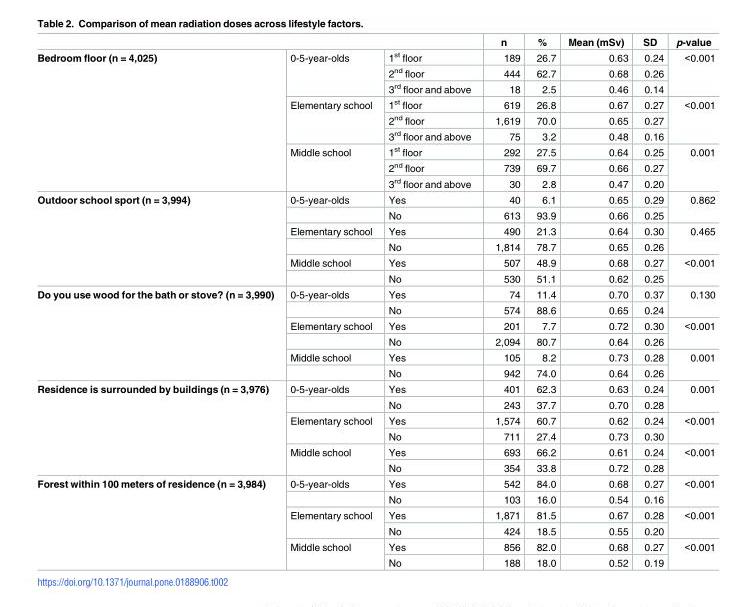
<table><thead><tr><td></td><td></td><td></td><td>n</td><td>%</td><td>Mean (mSv)</td><td>SD</td><td>p-value</td></tr></thead><tbody><tr><td rowspan="9">Bedroom floor (n = 4,025)</td><td rowspan="3">0-5-year-olds</td><td>1<sup>st</sup> floor</td><td>189</td><td>26.7</td><td>0.63</td><td>0.24</td><td rowspan="3">&lt;0.001</td></tr><tr><td>2<sup>nd</sup> floor</td><td>444</td><td>62.7</td><td>0.68</td><td>0.26</td></tr><tr><td>3<sup>rd</sup> floor and above</td><td>18</td><td>2.5</td><td>0.46</td><td>0.14</td></tr><tr><td rowspan="3">Elementary school</td><td>1<sup>st</sup> floor</td><td>619</td><td>26.8</td><td>0.67</td><td>0.27</td><td rowspan="3">&lt;0.001</td></tr><tr><td>2<sup>nd</sup> floor</td><td>1,619</td><td>70.0</td><td>0.65</td><td>0.27</td></tr><tr><td>3<sup>rd</sup> floor and above</td><td>75</td><td>3.2</td><td>0.48</td><td>0.16</td></tr><tr><td rowspan="3">Middle school</td><td>1<sup>st</sup> floor</td><td>292</td><td>27.5</td><td>0.64</td><td>0.25</td><td rowspan="3">0.001</td></tr><tr><td>2<sup>nd</sup> floor</td><td>739</td><td>69.7</td><td>0.66</td><td>0.27</td></tr><tr><td>3<sup>rd</sup> floor and above</td><td>30</td><td>2.8</td><td>0.47</td><td>0.20</td></tr><tr><td rowspan="6">Outdoor school sport (n = 3,994)</td><td>0-5-year-olds</td><td>Yes</td><td>40</td><td>6.1</td><td>0.65</td><td>0.29</td><td rowspan="2">0.862</td></tr><tr><td></td><td>No</td><td>613</td><td>93.9</td><td>0.66</td><td>0.25</td></tr><tr><td>Elementary school</td><td>Yes</td><td>490</td><td>21.3</td><td>0.64</td><td>0.30</td><td rowspan="2">0.465</td></tr><tr><td></td><td>No</td><td>1,814</td><td>78.7</td><td>0.65</td><td>0.26</td></tr><tr><td>Middle school</td><td>Yes</td><td>507</td><td>48.9</td><td>0.68</td><td>0.27</td><td rowspan="2">&lt;0.001</td></tr><tr><td></td><td>No</td><td>530</td><td>51.1</td><td>0.62</td><td>0.25</td></tr><tr><td rowspan="6">Do you use wood for the bath or stove? (n = 3,990)</td><td>0-5-year-olds</td><td>Yes</td><td>74</td><td>11.4</td><td>0.70</td><td>0.37</td><td rowspan="2">0.130</td></tr><tr><td></td><td>No</td><td>574</td><td>88.6</td><td>0.65</td><td>0.24</td></tr><tr><td>Elementary school</td><td>Yes</td><td>201</td><td>7.7</td><td>0.72</td><td>0.30</td><td rowspan="2">&lt;0.001</td></tr><tr><td></td><td>No</td><td>2,094</td><td>80.7</td><td>0.64</td><td>0.26</td></tr><tr><td>Middle school</td><td>Yes</td><td>105</td><td>8.2</td><td>0.73</td><td>0.28</td><td rowspan="2">0.001</td></tr><tr><td></td><td>No</td><td>942</td><td>74.0</td><td>0.64</td><td>0.26</td></tr><tr><td rowspan="6">Residence is surrounded by buildings (n = 3,976)</td><td>0-5-year-olds</td><td>Yes</td><td>401</td><td>62.3</td><td>0.63</td><td>0.24</td><td rowspan="2">0.001</td></tr><tr><td></td><td>No</td><td>243</td><td>37.7</td><td>0.70</td><td>0.28</td></tr><tr><td rowspan="2">Elementary school</td><td>Yes</td><td>1,574</td><td>60.7</td><td>0.62</td><td>0.24</td><td rowspan="2">&lt;0.001</td></tr><tr><td>No</td><td>711</td><td>27.4</td><td>0.73</td><td>0.30</td></tr><tr><td rowspan="2">Middle school</td><td>Yes</td><td>693</td><td>66.2</td><td>0.61</td><td>0.24</td><td rowspan="2">&lt;0.001</td></tr><tr><td>No</td><td>354</td><td>33.8</td><td>0.72</td><td>0.28</td></tr><tr><td rowspan="6">Forest within 100 meters of residence (n = 3,984)</td><td>0-5-year-olds</td><td>Yes</td><td>542</td><td>84.0</td><td>0.68</td><td>0.27</td><td rowspan="2">&lt;0.001</td></tr><tr><td></td><td>No</td><td>103</td><td>16.0</td><td>0.54</td><td>0.16</td></tr><tr><td rowspan="2">Elementary school</td><td>Yes</td><td>1,871</td><td>81.5</td><td>0.67</td><td>0.28</td><td rowspan="2">&lt;0.001</td></tr><tr><td>No</td><td>424</td><td>18.5</td><td>0.55</td><td>0.20</td></tr><tr><td rowspan="2">Middle school</td><td>Yes</td><td>856</td><td>82.0</td><td>0.68</td><td>0.27</td><td rowspan="2">&lt;0.001</td></tr><tr><td>No</td><td>188</td><td>18.0</td><td>0.52</td><td>0.19</td></tr></tbody></table>